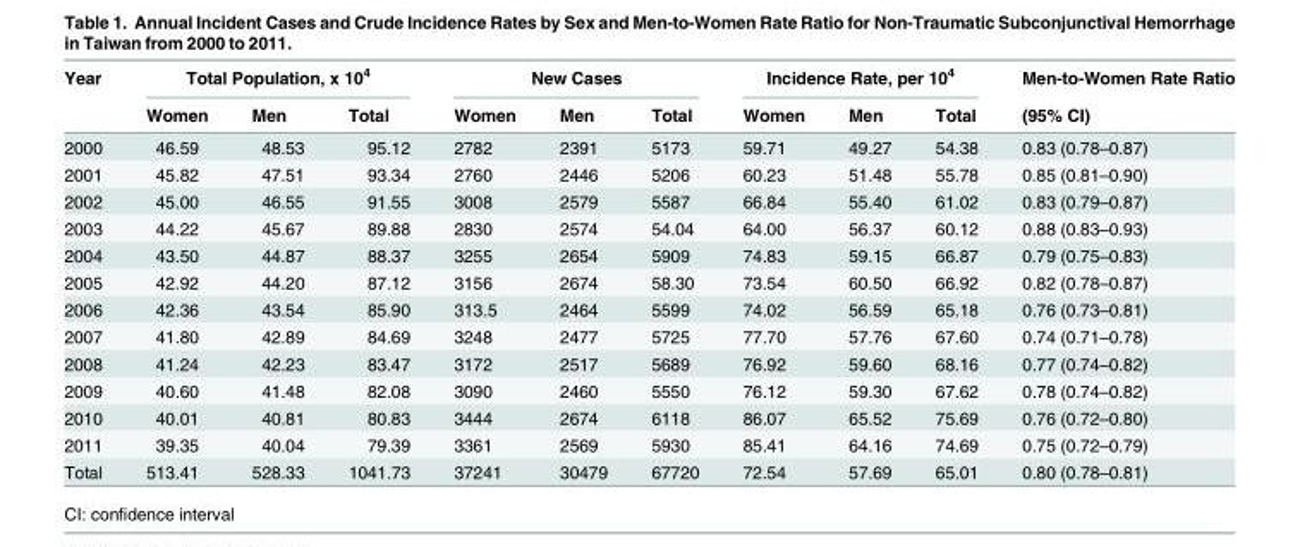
<table><thead><tr><td rowspan="2">Year</td><td colspan="3">Total Population, x 10<sup>4</sup></td><td colspan="3">New Cases</td><td colspan="3">Incidence Rate, per 10<sup>4</sup></td><td rowspan="2">Men-to-Women Rate Ratio (95% CI)</td></tr><tr><td>Women</td><td>Men</td><td>Total</td><td>Women</td><td>Men</td><td>Total</td><td>Women</td><td>Men</td><td>Total</td></tr></thead><tbody><tr><td>2000</td><td>46.59</td><td>48.53</td><td>95.12</td><td>2782</td><td>2391</td><td>5173</td><td>59.71</td><td>49.27</td><td>54.38</td><td>0.83 (0.78–0.87)</td></tr><tr><td>2001</td><td>45.82</td><td>47.51</td><td>93.34</td><td>2760</td><td>2446</td><td>5206</td><td>60.23</td><td>51.48</td><td>55.78</td><td>0.85 (0.81–0.90)</td></tr><tr><td>2002</td><td>45.00</td><td>46.55</td><td>91.55</td><td>3008</td><td>2579</td><td>5587</td><td>66.84</td><td>55.40</td><td>61.02</td><td>0.83 (0.79–0.87)</td></tr><tr><td>2003</td><td>44.22</td><td>45.67</td><td>89.88</td><td>2830</td><td>2574</td><td>54.04</td><td>64.00</td><td>56.37</td><td>60.12</td><td>0.88 (0.83–0.93)</td></tr><tr><td>2004</td><td>43.50</td><td>44.87</td><td>88.37</td><td>3255</td><td>2654</td><td>5909</td><td>74.83</td><td>59.15</td><td>66.87</td><td>0.79 (0.75–0.83)</td></tr><tr><td>2005</td><td>42.92</td><td>44.20</td><td>87.12</td><td>3156</td><td>2674</td><td>58.30</td><td>73.54</td><td>60.50</td><td>66.92</td><td>0.82 (0.78–0.87)</td></tr><tr><td>2006</td><td>42.36</td><td>43.54</td><td>85.90</td><td>313.5</td><td>2464</td><td>5599</td><td>74.02</td><td>56.59</td><td>65.18</td><td>0.76 (0.73–0.81)</td></tr><tr><td>2007</td><td>41.80</td><td>42.89</td><td>84.69</td><td>3248</td><td>2477</td><td>5725</td><td>77.70</td><td>57.76</td><td>67.60</td><td>0.74 (0.71–0.78)</td></tr><tr><td>2008</td><td>41.24</td><td>42.23</td><td>83.47</td><td>3172</td><td>2517</td><td>5689</td><td>76.92</td><td>59.60</td><td>68.16</td><td>0.77 (0.74–0.82)</td></tr><tr><td>2009</td><td>40.60</td><td>41.48</td><td>82.08</td><td>3090</td><td>2460</td><td>5550</td><td>76.12</td><td>59.30</td><td>67.62</td><td>0.78 (0.74–0.82)</td></tr><tr><td>2010</td><td>40.01</td><td>40.81</td><td>80.83</td><td>3444</td><td>2674</td><td>6118</td><td>86.07</td><td>65.52</td><td>75.69</td><td>0.76 (0.72–0.80)</td></tr><tr><td>2011</td><td>39.35</td><td>40.04</td><td>79.39</td><td>3361</td><td>2569</td><td>5930</td><td>85.41</td><td>64.16</td><td>74.69</td><td>0.75 (0.72–0.79)</td></tr><tr><td>Total</td><td>513.41</td><td>528.33</td><td>1041.73</td><td>37241</td><td>30479</td><td>67720</td><td>72.54</td><td>57.69</td><td>65.01</td><td>0.80 (0.78–0.81)</td></tr></tbody></table>